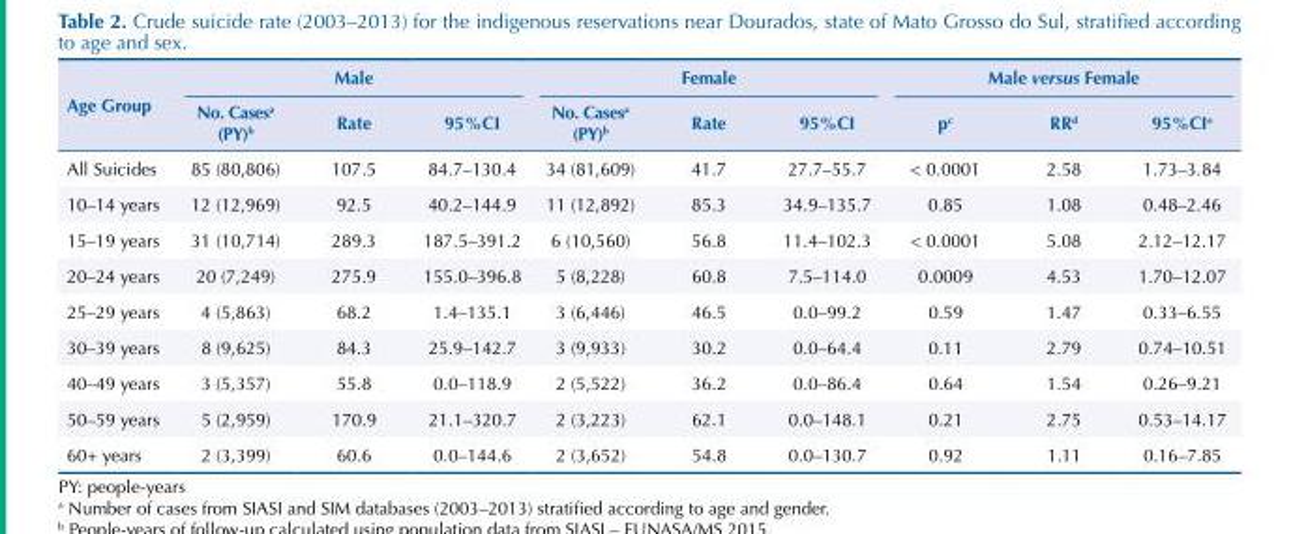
<table><thead><tr><td rowspan="2">Age Group</td><td colspan="3">Male</td><td colspan="3">Female</td><td colspan="3">Male versus Female</td></tr><tr><td>No. Cases<sup>a</sup> (PY)<sup>b</sup></td><td>Rate</td><td>95%CI</td><td>No. Cases<sup>a</sup> (PY)<sup>b</sup></td><td>Rate</td><td>95%CI</td><td>p<sup>c</sup></td><td>RR<sup>d</sup></td><td>95%CI<sup>e</sup></td></tr></thead><tbody><tr><td>All Suicides</td><td>85 (80,806)</td><td>107.5</td><td>84.7–130.4</td><td>34 (81,609)</td><td>41.7</td><td>27.7–55.7</td><td>&lt; 0.0001</td><td>2.58</td><td>1.73–3.84</td></tr><tr><td>10–14 years</td><td>12 (12,969)</td><td>92.5</td><td>40.2–144.9</td><td>11 (12,892)</td><td>85.3</td><td>34.9–135.7</td><td>0.85</td><td>1.08</td><td>0.48–2.46</td></tr><tr><td>15–19 years</td><td>31 (10,714)</td><td>289.3</td><td>187.5–391.2</td><td>6 (10,560)</td><td>56.8</td><td>11.4–102.3</td><td>&lt; 0.0001</td><td>5.08</td><td>2.12–12.17</td></tr><tr><td>20–24 years</td><td>20 (7,249)</td><td>275.9</td><td>155.0–396.8</td><td>5 (8,228)</td><td>60.8</td><td>7.5–114.0</td><td>0.0009</td><td>4.53</td><td>1.70–12.07</td></tr><tr><td>25–29 years</td><td>4 (5,863)</td><td>68.2</td><td>1.4–135.1</td><td>3 (6,446)</td><td>46.5</td><td>0.0–99.2</td><td>0.59</td><td>1.47</td><td>0.33–6.55</td></tr><tr><td>30–39 years</td><td>8 (9,625)</td><td>84.3</td><td>25.9–142.7</td><td>3 (9,933)</td><td>30.2</td><td>0.0–64.4</td><td>0.11</td><td>2.79</td><td>0.74–10.51</td></tr><tr><td>40–49 years</td><td>3 (5,357)</td><td>55.8</td><td>0.0–118.9</td><td>2 (5,522)</td><td>36.2</td><td>0.0–86.4</td><td>0.64</td><td>1.54</td><td>0.26–9.21</td></tr><tr><td>50–59 years</td><td>5 (2,959)</td><td>170.9</td><td>21.1–320.7</td><td>2 (3,223)</td><td>62.1</td><td>0.0–148.1</td><td>0.21</td><td>2.75</td><td>0.53–14.17</td></tr><tr><td>60+ years</td><td>2 (3,399)</td><td>60.6</td><td>0.0–144.6</td><td>2 (3,652)</td><td>54.8</td><td>0.0–130.7</td><td>0.92</td><td>1.11</td><td>0.16–7.85</td></tr></tbody></table>